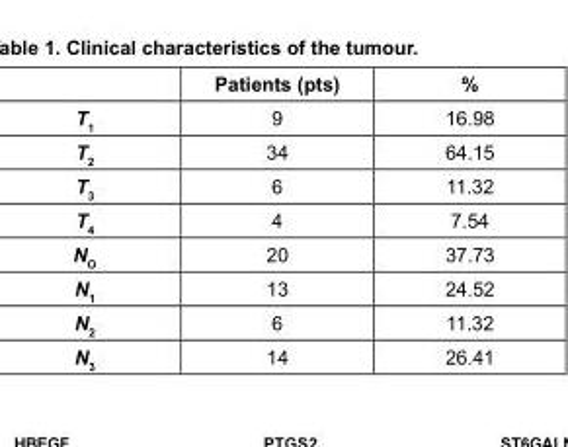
<table><thead><tr><td></td><td>Patients (pts)</td><td>%</td></tr></thead><tbody><tr><td>T<sub>1</sub></td><td>9</td><td>16.98</td></tr><tr><td>T<sub>2</sub></td><td>34</td><td>64.15</td></tr><tr><td>T<sub>3</sub></td><td>6</td><td>11.32</td></tr><tr><td>T<sub>4</sub></td><td>4</td><td>7.54</td></tr><tr><td>N<sub>O</sub></td><td>20</td><td>37.73</td></tr><tr><td>N<sub>1</sub></td><td>13</td><td>24.52</td></tr><tr><td>N<sub>2</sub></td><td>6</td><td>11.32</td></tr><tr><td>N<sub>3</sub></td><td>14</td><td>26.41</td></tr></tbody></table>